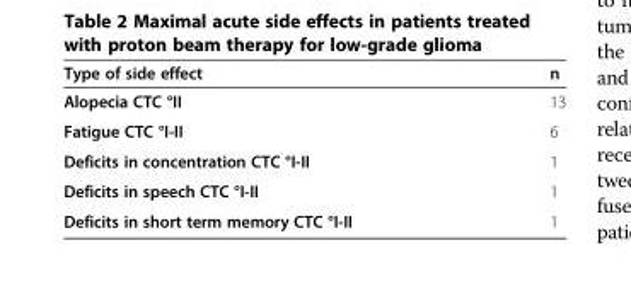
<table><thead><tr><td>Type of side effect</td><td>n</td></tr></thead><tbody><tr><td>Alopecia CTC °II</td><td>13</td></tr><tr><td>Fatigue CTC °I-II</td><td>6</td></tr><tr><td>Deficits in concentration CTC °I-II</td><td>1</td></tr><tr><td>Deficits in speech CTC °I-II</td><td>1</td></tr><tr><td>Deficits in short term memory CTC °I-II</td><td>1</td></tr></tbody></table>